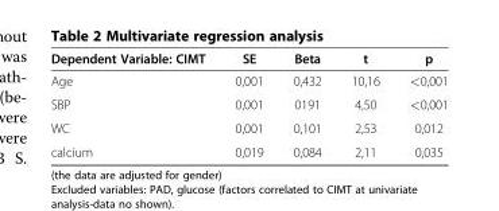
<table><thead><tr><td>Dependent Variable: CIMT</td><td>SE</td><td>Beta</td><td>t</td><td>p</td></tr></thead><tbody><tr><td>Age</td><td>0,001</td><td>0,432</td><td>10,16</td><td>&lt;0,001</td></tr><tr><td>SBP</td><td>0,001</td><td>0191</td><td>4,50</td><td>&lt;0,001</td></tr><tr><td>WC</td><td>0,001</td><td>0,101</td><td>2,53</td><td>0,012</td></tr><tr><td>calcium</td><td>0,019</td><td>0,084</td><td>2,11</td><td>0,035</td></tr></tbody></table>